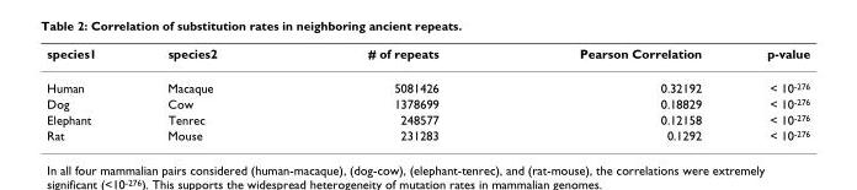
<table><thead><tr><td>species1</td><td>species2</td><td># of repeats</td><td>Pearson Correlation</td><td>p-value</td></tr></thead><tbody><tr><td>Human</td><td>Macaque</td><td>5081426</td><td>0.32192</td><td>&lt; 10<sup>-276</sup></td></tr><tr><td>Dog</td><td>Cow</td><td>1378699</td><td>0.18829</td><td>&lt; 10<sup>-276</sup></td></tr><tr><td>Elephant</td><td>Tenrec</td><td>248577</td><td>0.12158</td><td>&lt; 10<sup>-276</sup></td></tr><tr><td>Rat</td><td>Mouse</td><td>231283</td><td>0.1292</td><td>&lt; 10<sup>-276</sup></td></tr></tbody></table>